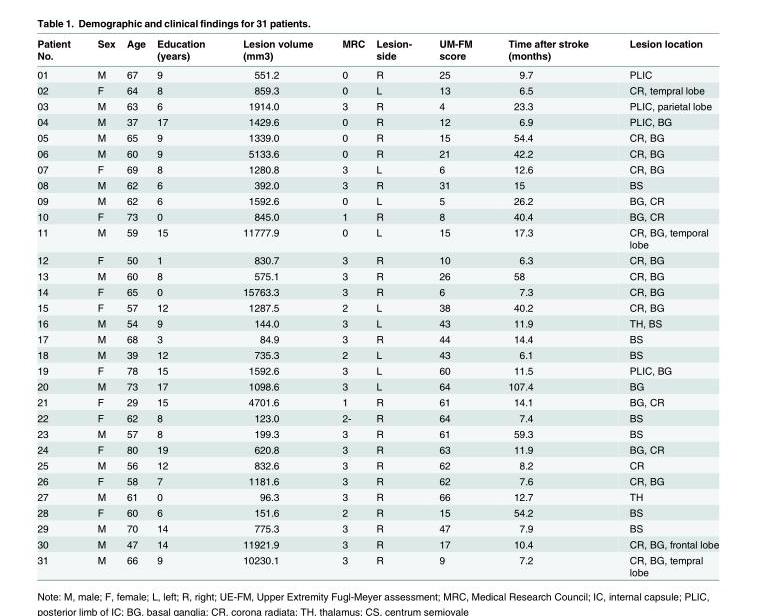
<table><thead><tr><td>Patient No.</td><td>Sex</td><td>Age</td><td>Education (years)</td><td>Lesion volume (mm3)</td><td>MRC</td><td>Lesion- side</td><td>UM-FM score</td><td>Time after stroke (months)</td><td>Lesion location</td></tr></thead><tbody><tr><td>01</td><td>M</td><td>67</td><td>9</td><td>551.2</td><td>0</td><td>R</td><td>25</td><td>9.7</td><td>PLIC</td></tr><tr><td>02</td><td>F</td><td>64</td><td>8</td><td>859.3</td><td>0</td><td>L</td><td>13</td><td>6.5</td><td>CR, tempral lobe</td></tr><tr><td>03</td><td>M</td><td>63</td><td>6</td><td>1914.0</td><td>3</td><td>R</td><td>4</td><td>23.3</td><td>PLIC, parietal lobe</td></tr><tr><td>04</td><td>M</td><td>37</td><td>17</td><td>1429.6</td><td>0</td><td>R</td><td>12</td><td>6.9</td><td>PLIC, BG</td></tr><tr><td>05</td><td>M</td><td>65</td><td>9</td><td>1339.0</td><td>0</td><td>R</td><td>15</td><td>54.4</td><td>CR, BG</td></tr><tr><td>06</td><td>M</td><td>60</td><td>9</td><td>5133.6</td><td>0</td><td>R</td><td>21</td><td>42.2</td><td>CR, BG</td></tr><tr><td>07</td><td>F</td><td>69</td><td>8</td><td>1280.8</td><td>3</td><td>L</td><td>6</td><td>12.6</td><td>CR, BG</td></tr><tr><td>08</td><td>M</td><td>62</td><td>6</td><td>392.0</td><td>3</td><td>R</td><td>31</td><td>15</td><td>BS</td></tr><tr><td>09</td><td>M</td><td>62</td><td>6</td><td>1592.6</td><td>0</td><td>L</td><td>5</td><td>26.2</td><td>BG, CR</td></tr><tr><td>10</td><td>F</td><td>73</td><td>0</td><td>845.0</td><td>1</td><td>R</td><td>8</td><td>40.4</td><td>BG, CR</td></tr><tr><td>11</td><td>M</td><td>59</td><td>15</td><td>11777.9</td><td>0</td><td>L</td><td>15</td><td>17.3</td><td>CR, BG, temporal lobe</td></tr><tr><td>12</td><td>F</td><td>50</td><td>1</td><td>830.7</td><td>3</td><td>R</td><td>10</td><td>6.3</td><td>CR, BG</td></tr><tr><td>13</td><td>M</td><td>60</td><td>8</td><td>575.1</td><td>3</td><td>R</td><td>26</td><td>58</td><td>CR, BG</td></tr><tr><td>14</td><td>F</td><td>65</td><td>0</td><td>15763.3</td><td>3</td><td>R</td><td>6</td><td>7.3</td><td>CR, BG</td></tr><tr><td>15</td><td>F</td><td>57</td><td>12</td><td>1287.5</td><td>2</td><td>L</td><td>38</td><td>40.2</td><td>CR, BG</td></tr><tr><td>16</td><td>M</td><td>54</td><td>9</td><td>144.0</td><td>3</td><td>L</td><td>43</td><td>11.9</td><td>TH, BS</td></tr><tr><td>17</td><td>M</td><td>68</td><td>3</td><td>84.9</td><td>3</td><td>R</td><td>44</td><td>14.4</td><td>BS</td></tr><tr><td>18</td><td>M</td><td>39</td><td>12</td><td>735.3</td><td>2</td><td>L</td><td>43</td><td>6.1</td><td>BS</td></tr><tr><td>19</td><td>F</td><td>78</td><td>15</td><td>1592.6</td><td>3</td><td>L</td><td>60</td><td>11.5</td><td>PLIC, BG</td></tr><tr><td>20</td><td>M</td><td>73</td><td>17</td><td>1098.6</td><td>3</td><td>L</td><td>64</td><td>107.4</td><td>BG</td></tr><tr><td>21</td><td>F</td><td>29</td><td>15</td><td>4701.6</td><td>1</td><td>R</td><td>61</td><td>14.1</td><td>BG, CR</td></tr><tr><td>22</td><td>F</td><td>62</td><td>8</td><td>123.0</td><td>2-</td><td>R</td><td>64</td><td>7.4</td><td>BS</td></tr><tr><td>23</td><td>M</td><td>57</td><td>8</td><td>199.3</td><td>3</td><td>R</td><td>61</td><td>59.3</td><td>BS</td></tr><tr><td>24</td><td>F</td><td>80</td><td>19</td><td>620.8</td><td>3</td><td>R</td><td>63</td><td>11.9</td><td>BG, CR</td></tr><tr><td>25</td><td>M</td><td>56</td><td>12</td><td>832.6</td><td>3</td><td>R</td><td>62</td><td>8.2</td><td>CR</td></tr><tr><td>26</td><td>F</td><td>58</td><td>7</td><td>1181.6</td><td>3</td><td>R</td><td>62</td><td>7.6</td><td>CR, BG</td></tr><tr><td>27</td><td>M</td><td>61</td><td>0</td><td>96.3</td><td>3</td><td>R</td><td>66</td><td>12.7</td><td>TH</td></tr><tr><td>28</td><td>F</td><td>60</td><td>6</td><td>151.6</td><td>2</td><td>R</td><td>15</td><td>54.2</td><td>BS</td></tr><tr><td>29</td><td>M</td><td>70</td><td>14</td><td>775.3</td><td>3</td><td>R</td><td>47</td><td>7.9</td><td>BS</td></tr><tr><td>30</td><td>M</td><td>47</td><td>14</td><td>11921.9</td><td>3</td><td>R</td><td>17</td><td>10.4</td><td>CR, BG, frontal lobe</td></tr><tr><td>31</td><td>M</td><td>66</td><td>9</td><td>10230.1</td><td>3</td><td>R</td><td>9</td><td>7.2</td><td>CR, BG, tempral lobe</td></tr></tbody></table>